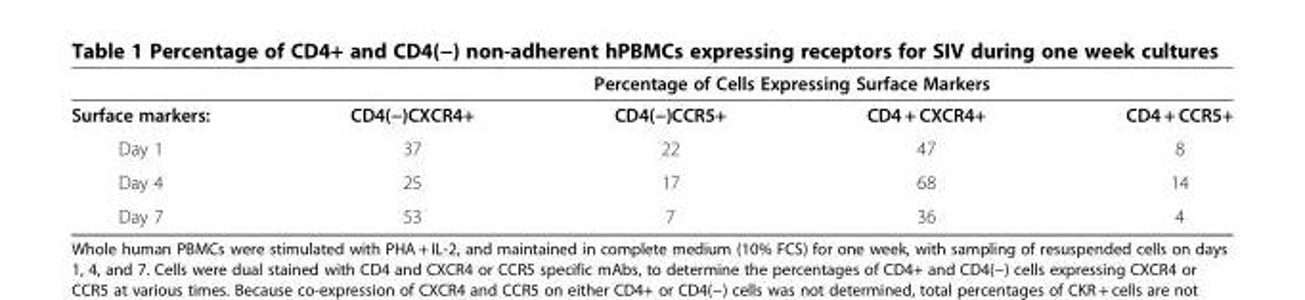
<table><thead><tr><td rowspan="2">Surface markers:</td><td colspan="4">Percentage of Cells Expressing Surface Markers</td></tr><tr><td>CD4(−)CXCR4+</td><td>CD4(−)CCR5+</td><td>CD4 + CXCR4+</td><td>CD4 + CCR5+</td></tr></thead><tbody><tr><td>Day 1</td><td>37</td><td>22</td><td>47</td><td>8</td></tr><tr><td>Day 4</td><td>25</td><td>17</td><td>68</td><td>14</td></tr><tr><td>Day 7</td><td>53</td><td>7</td><td>36</td><td>4</td></tr></tbody></table>